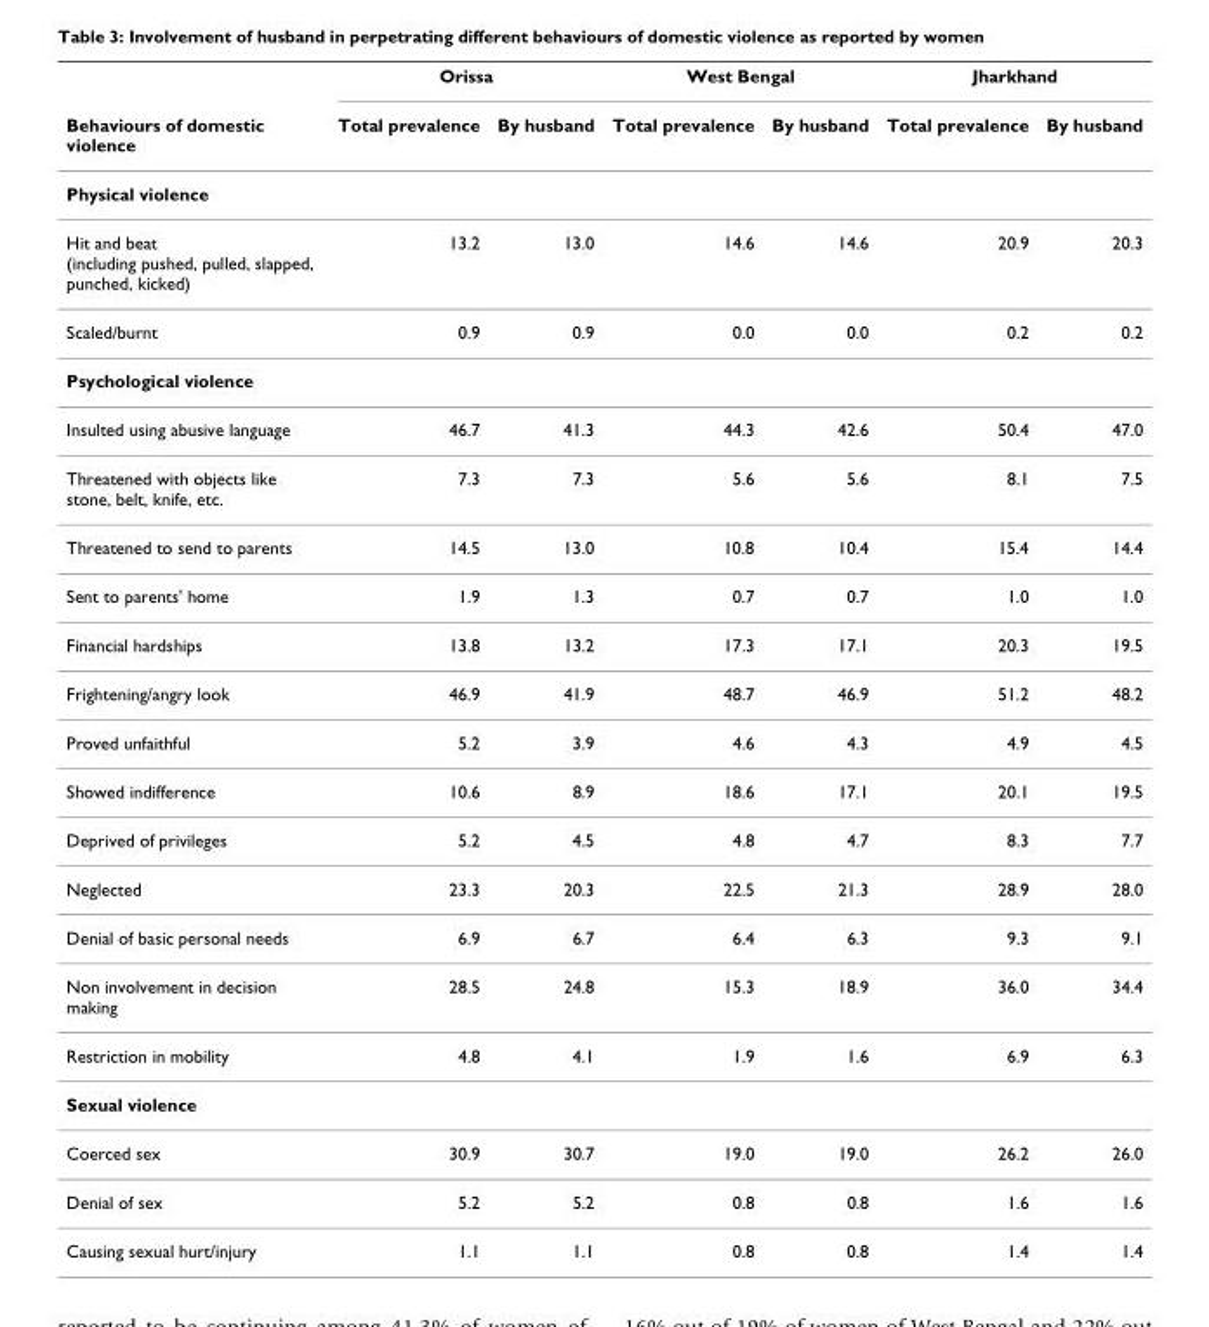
<table><thead><tr><td rowspan="2">Behaviours of domestic violence</td><td colspan="2">Orissa</td><td colspan="2">West Bengal</td><td colspan="2">Jharkhand</td></tr><tr><td>Total prevalence</td><td>By husband</td><td>Total prevalence</td><td>By husband</td><td>Total prevalence</td><td>By husband</td></tr></thead><tbody><tr><td colspan="7">Physical violence</td></tr><tr><td>Hit and beat (including pushed, pulled, slapped, punched, kicked)</td><td>13.2</td><td>13.0</td><td>14.6</td><td>14.6</td><td>20.9</td><td>20.3</td></tr><tr><td>Scaled/burnt</td><td>0.9</td><td>0.9</td><td>0.0</td><td>0.0</td><td>0.2</td><td>0.2</td></tr><tr><td colspan="7">Psychological violence</td></tr><tr><td>Insulted using abusive language</td><td>46.7</td><td>41.3</td><td>44.3</td><td>42.6</td><td>50.4</td><td>47.0</td></tr><tr><td>Threatened with objects like stone, belt, knife, etc.</td><td>7.3</td><td>7.3</td><td>5.6</td><td>5.6</td><td>8.1</td><td>7.5</td></tr><tr><td>Threatened to send to parents</td><td>14.5</td><td>13.0</td><td>10.8</td><td>10.4</td><td>15.4</td><td>14.4</td></tr><tr><td>Sent to parents&#x27; home</td><td>1.9</td><td>1.3</td><td>0.7</td><td>0.7</td><td>1.0</td><td>1.0</td></tr><tr><td>Financial hardships</td><td>13.8</td><td>13.2</td><td>17.3</td><td>17.1</td><td>20.3</td><td>19.5</td></tr><tr><td>Frightening/angry look</td><td>46.9</td><td>41.9</td><td>48.7</td><td>46.9</td><td>51.2</td><td>48.2</td></tr><tr><td>Proved unfaithful</td><td>5.2</td><td>3.9</td><td>4.6</td><td>4.3</td><td>4.9</td><td>4.5</td></tr><tr><td>Showed indifference</td><td>10.6</td><td>8.9</td><td>18.6</td><td>17.1</td><td>20.1</td><td>19.5</td></tr><tr><td>Deprived of privileges</td><td>5.2</td><td>4.5</td><td>4.8</td><td>4.7</td><td>8.3</td><td>7.7</td></tr><tr><td>Neglected</td><td>23.3</td><td>20.3</td><td>22.5</td><td>21.3</td><td>28.9</td><td>28.0</td></tr><tr><td>Denial of basic personal needs</td><td>6.9</td><td>6.7</td><td>6.4</td><td>6.3</td><td>9.3</td><td>9.1</td></tr><tr><td>Non involvement in decision making</td><td>28.5</td><td>24.8</td><td>15.3</td><td>18.9</td><td>36.0</td><td>34.4</td></tr><tr><td>Restriction in mobility</td><td>4.8</td><td>4.1</td><td>1.9</td><td>1.6</td><td>6.9</td><td>6.3</td></tr><tr><td colspan="7">Sexual violence</td></tr><tr><td>Coerced sex</td><td>30.9</td><td>30.7</td><td>19.0</td><td>19.0</td><td>26.2</td><td>26.0</td></tr><tr><td>Denial of sex</td><td>5.2</td><td>5.2</td><td>0.8</td><td>0.8</td><td>1.6</td><td>1.6</td></tr><tr><td>Causing sexual hurt/injury</td><td>1.1</td><td>1.1</td><td>0.8</td><td>0.8</td><td>1.4</td><td>1.4</td></tr></tbody></table>